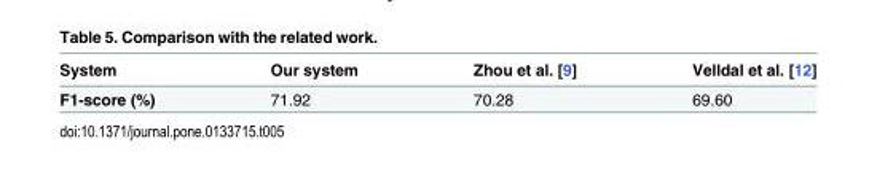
<table><thead><tr><td>System</td><td>Our system</td><td>Zhou et al. [9]</td><td>Velldal et al. [12]</td></tr></thead><tbody><tr><td>F1-score (%)</td><td>71.92</td><td>70.28</td><td>69.60</td></tr></tbody></table>